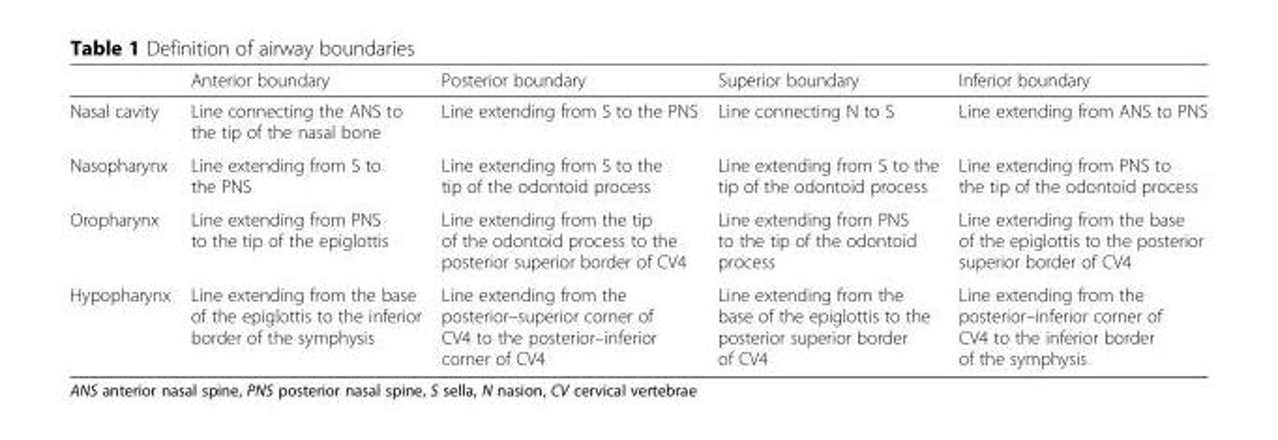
<table><thead><tr><td></td><td>Anterior boundary</td><td>Posterior boundary</td><td>Superior boundary</td><td>Inferior boundary</td></tr></thead><tbody><tr><td>Nasal cavity</td><td>Line connecting the ANS to the tip of the nasal bone</td><td>Line extending from S to the PNS</td><td>Line connecting N to S</td><td>Line extending from ANS to PNS</td></tr><tr><td>Nasopharynx</td><td>Line extending from S to the PNS</td><td>Line extending from S to the tip of the odontoid process</td><td>Line extending from S to the tip of the odontoid process</td><td>Line extending from PNS to the tip of the odontoid process</td></tr><tr><td>Oropharynx</td><td>Line extending from PNS to the tip of the epiglottis</td><td>Line extending from the tip of the odontoid process to the posterior superior border of CV4</td><td>Line extending from PNS to the tip of the odontoid process</td><td>Line extending from the base of the epiglottis to the posterior superior border of CV4</td></tr><tr><td>Hypopharynx</td><td>Line extending from the base of the epiglottis to the inferior border of the symphysis</td><td>Line extending from the posterior–superior corner of CV4 to the posterior–inferior corner of CV4</td><td>Line extending from the base of the epiglottis to the posterior superior border of CV4</td><td>Line extending from the posterior–inferior corner of CV4 to the inferior border of the symphysis</td></tr></tbody></table>